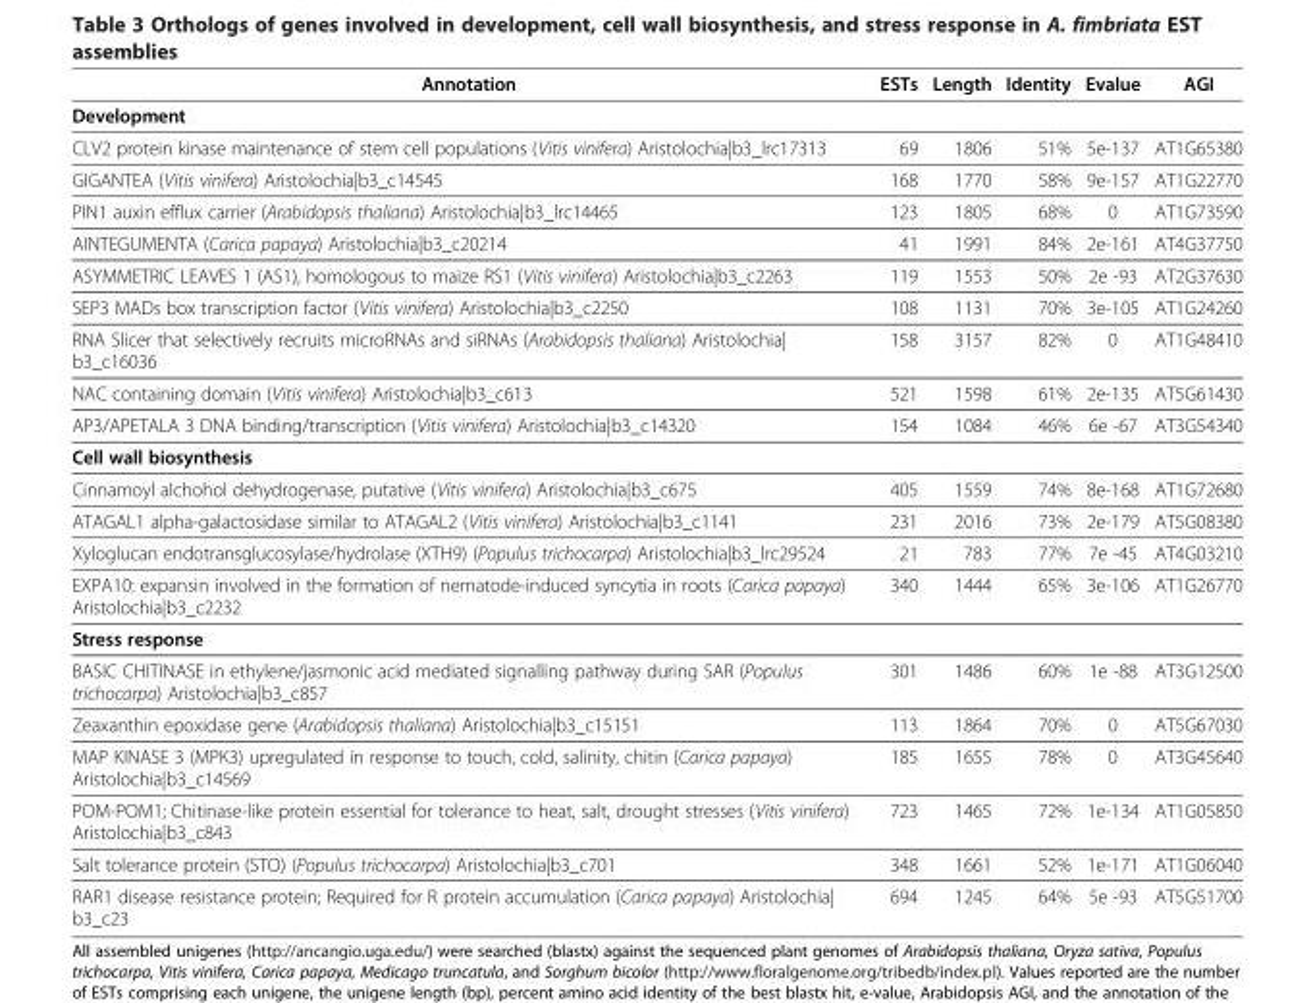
<table><thead><tr><td>Annotation</td><td>ESTs</td><td>Length</td><td>Identity</td><td>Evalue</td><td>AGI</td></tr></thead><tbody><tr><td colspan="6">Development</td></tr><tr><td>CLV2 protein kinase maintenance of stem cell populations (Vitis vinifera) Aristolochia|b3_lrc17313</td><td>69</td><td>1806</td><td>51%</td><td>5e-137</td><td>AT1G65380</td></tr><tr><td>GIGANTEA (Vitis vinifera) Aristolochia|b3_c14545</td><td>168</td><td>1770</td><td>58%</td><td>9e-157</td><td>AT1G22770</td></tr><tr><td>PIN1 auxin efflux carrier (Arabidopsis thaliana) Aristolochia|b3_lrc14465</td><td>123</td><td>1805</td><td>68%</td><td>0</td><td>AT1G73590</td></tr><tr><td>AINTEGUMENTA (Carica papaya) Aristolochia|b3_c20214</td><td>41</td><td>1991</td><td>84%</td><td>2e-161</td><td>AT4G37750</td></tr><tr><td>ASYMMETRIC LEAVES 1 (AS1), homologous to maize RS1 (Vitis vinifera) Aristolochia|b3_c2263</td><td>119</td><td>1553</td><td>50%</td><td>2e -93</td><td>AT2G37630</td></tr><tr><td>SEP3 MADs box transcription factor (Vitis vinifera) Aristolochia|b3_c2250</td><td>108</td><td>1131</td><td>70%</td><td>3e-105</td><td>AT1G24260</td></tr><tr><td>RNA Slicer that selectively recruits microRNAs and siRNAs (Arabidopsis thaliana) Aristolochia| b3_c16036</td><td>158</td><td>3157</td><td>82%</td><td>0</td><td>AT1G48410</td></tr><tr><td>NAC containing domain (Vitis vinifera) Aristolochia|b3_c613</td><td>521</td><td>1598</td><td>61%</td><td>2e-135</td><td>AT5G61430</td></tr><tr><td>AP3/APETALA 3 DNA binding/transcription (Vitis vinifera) Aristolochia|b3_c14320</td><td>154</td><td>1084</td><td>46%</td><td>6e -67</td><td>AT3G54340</td></tr><tr><td colspan="6">Cell wall biosynthesis</td></tr><tr><td>Cinnamoyl alchohol dehydrogenase, putative (Vitis vinifera) Aristolochia|b3_c675</td><td>405</td><td>1559</td><td>74%</td><td>8e-168</td><td>AT1G72680</td></tr><tr><td>ATAGAL1 alpha-galactosidase similar to ATAGAL2 (Vitis vinifera) Aristolochia|b3_c1141</td><td>231</td><td>2016</td><td>73%</td><td>2e-179</td><td>AT5G08380</td></tr><tr><td>Xyloglucan endotransglucosylase/hydrolase (XTH9) (Populus trichocarpa) Aristolochia|b3_lrc29524</td><td>21</td><td>783</td><td>77%</td><td>7e -45</td><td>AT4G03210</td></tr><tr><td>EXPA10: expansin involved in the formation of nematode-induced syncytia in roots (Carica papaya) Aristolochia|b3_c2232</td><td>340</td><td>1444</td><td>65%</td><td>3e-106</td><td>AT1G26770</td></tr><tr><td colspan="6">Stress response</td></tr><tr><td>BASIC CHITINASE in ethylene/jasmonic acid mediated signalling pathway during SAR (Populus trichocarpa) Aristolochia|b3_c857</td><td>301</td><td>1486</td><td>60%</td><td>1e -88</td><td>AT3G12500</td></tr><tr><td>Zeaxanthin epoxidase gene (Arabidopsis thaliana) Aristolochia|b3_c15151</td><td>113</td><td>1864</td><td>70%</td><td>0</td><td>AT5G67030</td></tr><tr><td>MAP KINASE 3 (MPK3) upregulated in response to touch, cold, salinity, chitin (Carica papaya) Aristolochia|b3_c14569</td><td>185</td><td>1655</td><td>78%</td><td>0</td><td>AT3G45640</td></tr><tr><td>POM-POM1; Chitinase-like protein essential for tolerance to heat, salt, drought stresses (Vitis vinifera) Aristolochia|b3_c843</td><td>723</td><td>1465</td><td>72%</td><td>1e-134</td><td>AT1G05850</td></tr><tr><td>Salt tolerance protein (STO) (Populus trichocarpa) Aristolochia|b3_c701</td><td>348</td><td>1661</td><td>52%</td><td>1e-171</td><td>AT1G06040</td></tr><tr><td>RAR1 disease resistance protein; Required for R protein accumulation (Carica papaya) Aristolochia| b3_c23</td><td>694</td><td>1245</td><td>64%</td><td>5e -93</td><td>AT5G51700</td></tr></tbody></table>